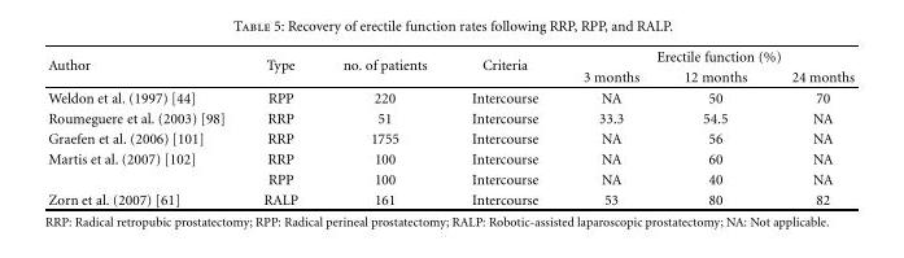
<table><thead><tr><td rowspan="2">Author</td><td rowspan="2">Type</td><td rowspan="2">no. of patients</td><td rowspan="2">Criteria</td><td colspan="3">Erectile function (%)</td></tr><tr><td>3 months</td><td>12 months</td><td>24 months</td></tr></thead><tbody><tr><td>Weldon et al. (1997) [44]</td><td>RPP</td><td>220</td><td>Intercourse</td><td>NA</td><td>50</td><td>70</td></tr><tr><td>Roumeguere et al. (2003) [98]</td><td>RRP</td><td>51</td><td>Intercourse</td><td>33.3</td><td>54.5</td><td>NA</td></tr><tr><td>Graefen et al. (2006) [101]</td><td>RRP</td><td>1755</td><td>Intercourse</td><td>NA</td><td>56</td><td>NA</td></tr><tr><td rowspan="2">Martis et al. (2007) [102]</td><td>RRP</td><td>100</td><td>Intercourse</td><td>NA</td><td>60</td><td>NA</td></tr><tr><td>RPP</td><td>100</td><td>Intercourse</td><td>NA</td><td>40</td><td>NA</td></tr><tr><td>Zorn et al. (2007) [61]</td><td>RALP</td><td>161</td><td>Intercourse</td><td>53</td><td>80</td><td>82</td></tr></tbody></table>